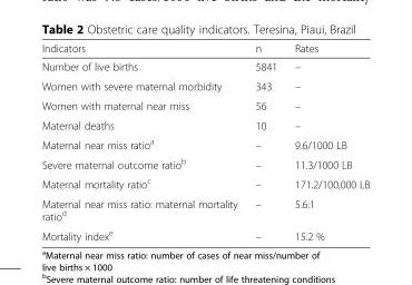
<table><thead><tr><td>Indicators</td><td>n</td><td>Rates</td></tr></thead><tbody><tr><td>Number of live births</td><td>5841</td><td>–</td></tr><tr><td>Women with severe maternal morbidity</td><td>343</td><td>–</td></tr><tr><td>Women with maternal near miss</td><td>56</td><td>–</td></tr><tr><td>Maternal deaths</td><td>10</td><td>–</td></tr><tr><td>Maternal near miss ratio<sup>a</sup></td><td>–</td><td>9.6/1000 LB</td></tr><tr><td>Severe maternal outcome ratio<sup>b</sup></td><td>–</td><td>11.3/1000 LB</td></tr><tr><td>Maternal mortality ratio<sup>c</sup></td><td>–</td><td>171.2/100,000 LB</td></tr><tr><td>Maternal near miss ratio: maternal mortality ratio<sup>d</sup></td><td>–</td><td>5.6:1</td></tr><tr><td>Mortality index<sup>e</sup></td><td>–</td><td>15.2 %</td></tr></tbody></table>